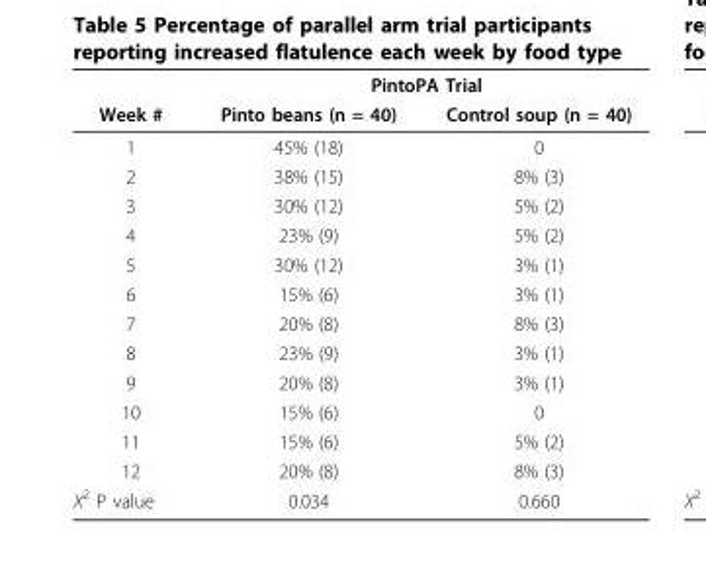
<table><thead><tr><td rowspan="2">Week #</td><td colspan="2">PintoPA Trial</td></tr><tr><td>Pinto beans (n = 40)</td><td>Control soup (n = 40)</td></tr></thead><tbody><tr><td>1</td><td>45% (18)</td><td>0</td></tr><tr><td>2</td><td>38% (15)</td><td>8% (3)</td></tr><tr><td>3</td><td>30% (12)</td><td>5% (2)</td></tr><tr><td>4</td><td>23% (9)</td><td>5% (2)</td></tr><tr><td>5</td><td>30% (12)</td><td>3% (1)</td></tr><tr><td>6</td><td>15% (6)</td><td>3% (1)</td></tr><tr><td>7</td><td>20% (8)</td><td>8% (3)</td></tr><tr><td>8</td><td>23% (9)</td><td>3% (1)</td></tr><tr><td>9</td><td>20% (8)</td><td>3% (1)</td></tr><tr><td>10</td><td>15% (6)</td><td>0</td></tr><tr><td>11</td><td>15% (6)</td><td>5% (2)</td></tr><tr><td>12</td><td>20% (8)</td><td>8% (3)</td></tr><tr><td>X<sup>2</sup> P value</td><td>0.034</td><td>0.660</td></tr></tbody></table>